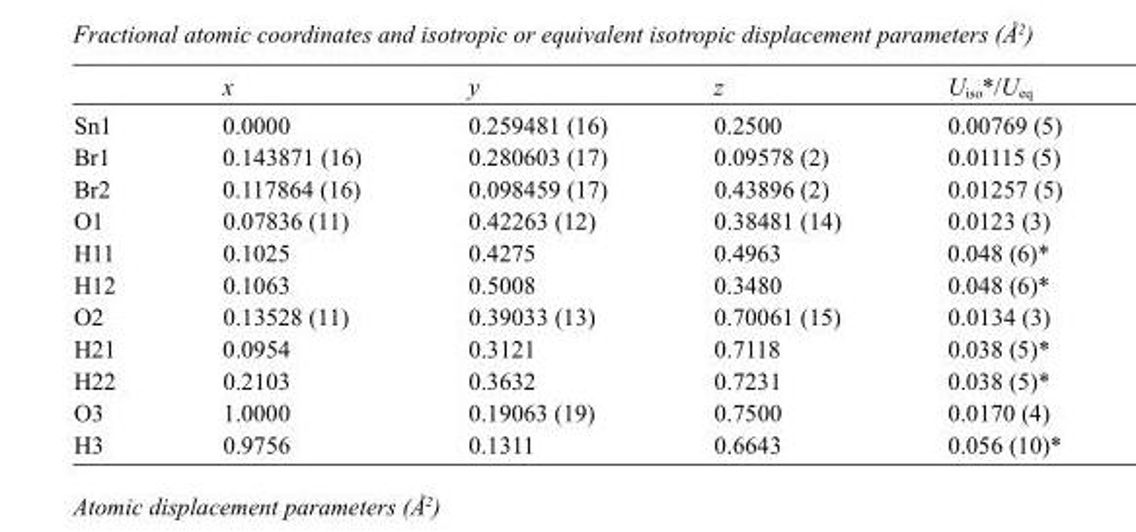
<table><thead><tr><td></td><td>x</td><td>y</td><td>z</td><td>U<sub>iso</sub>*/U<sub>eq</sub></td></tr></thead><tbody><tr><td>Sn1</td><td>0.0000</td><td>0.259481 (16)</td><td>0.2500</td><td>0.00769 (5)</td></tr><tr><td>Br1</td><td>0.143871 (16)</td><td>0.280603 (17)</td><td>0.09578 (2)</td><td>0.01115 (5)</td></tr><tr><td>Br2</td><td>0.117864 (16)</td><td>0.098459 (17)</td><td>0.43896 (2)</td><td>0.01257 (5)</td></tr><tr><td>O1</td><td>0.07836 (11)</td><td>0.42263 (12)</td><td>0.38481 (14)</td><td>0.0123 (3)</td></tr><tr><td>H11</td><td>0.1025</td><td>0.4275</td><td>0.4963</td><td>0.048 (6)*</td></tr><tr><td>H12</td><td>0.1063</td><td>0.5008</td><td>0.3480</td><td>0.048 (6)*</td></tr><tr><td>O2</td><td>0.13528 (11)</td><td>0.39033 (13)</td><td>0.70061 (15)</td><td>0.0134 (3)</td></tr><tr><td>H21</td><td>0.0954</td><td>0.3121</td><td>0.7118</td><td>0.038 (5)*</td></tr><tr><td>H22</td><td>0.2103</td><td>0.3632</td><td>0.7231</td><td>0.038 (5)*</td></tr><tr><td>O3</td><td>1.0000</td><td>0.19063 (19)</td><td>0.7500</td><td>0.0170 (4)</td></tr><tr><td>H3</td><td>0.9756</td><td>0.1311</td><td>0.6643</td><td>0.056 (10)*</td></tr></tbody></table>